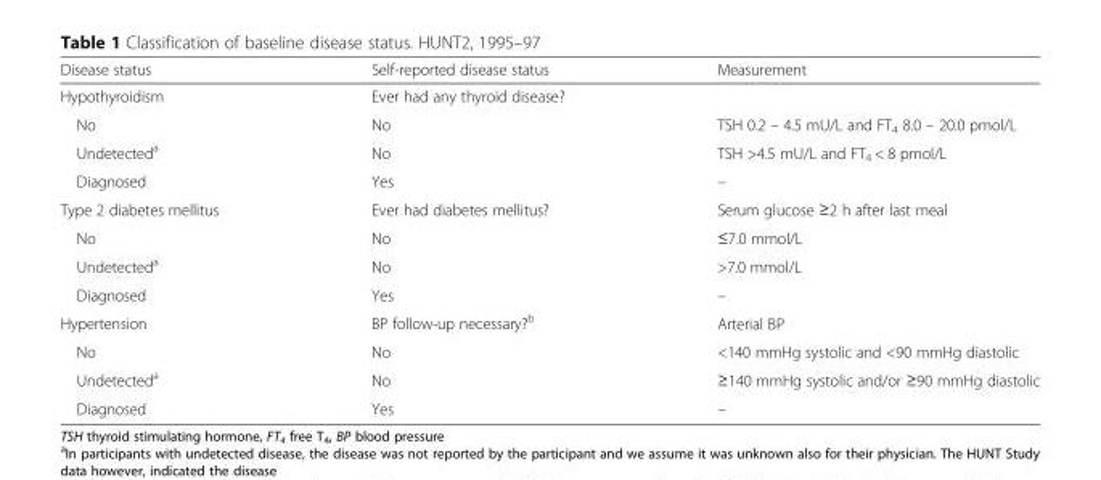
<table><thead><tr><td>Disease status</td><td>Self-reported disease status</td><td>Measurement</td></tr></thead><tbody><tr><td>Hypothyroidism</td><td>Ever had any thyroid disease?</td><td></td></tr><tr><td>No</td><td>No</td><td>TSH 0.2 – 4.5 mU/L and FT<sub>4</sub> 8.0 – 20.0 pmol/L</td></tr><tr><td>Undetected<sup>a</sup></td><td>No</td><td>TSH &gt;4.5 mU/L and FT<sub>4</sub> &lt; 8 pmol/L</td></tr><tr><td>Diagnosed</td><td>Yes</td><td>–</td></tr><tr><td>Type 2 diabetes mellitus</td><td>Ever had diabetes mellitus?</td><td>Serum glucose ≥2 h after last meal</td></tr><tr><td>No</td><td>No</td><td>≤7.0 mmol/L</td></tr><tr><td>Undetected<sup>a</sup></td><td>No</td><td>&gt;7.0 mmol/L</td></tr><tr><td>Diagnosed</td><td>Yes</td><td>–</td></tr><tr><td>Hypertension</td><td>BP follow-up necessary?<sup>b</sup></td><td>Arterial BP</td></tr><tr><td>No</td><td>No</td><td>&lt;140 mmHg systolic and &lt;90 mmHg diastolic</td></tr><tr><td>Undetected<sup>a</sup></td><td>No</td><td>≥140 mmHg systolic and/or ≥90 mmHg diastolic</td></tr><tr><td>Diagnosed</td><td>Yes</td><td>–</td></tr></tbody></table>